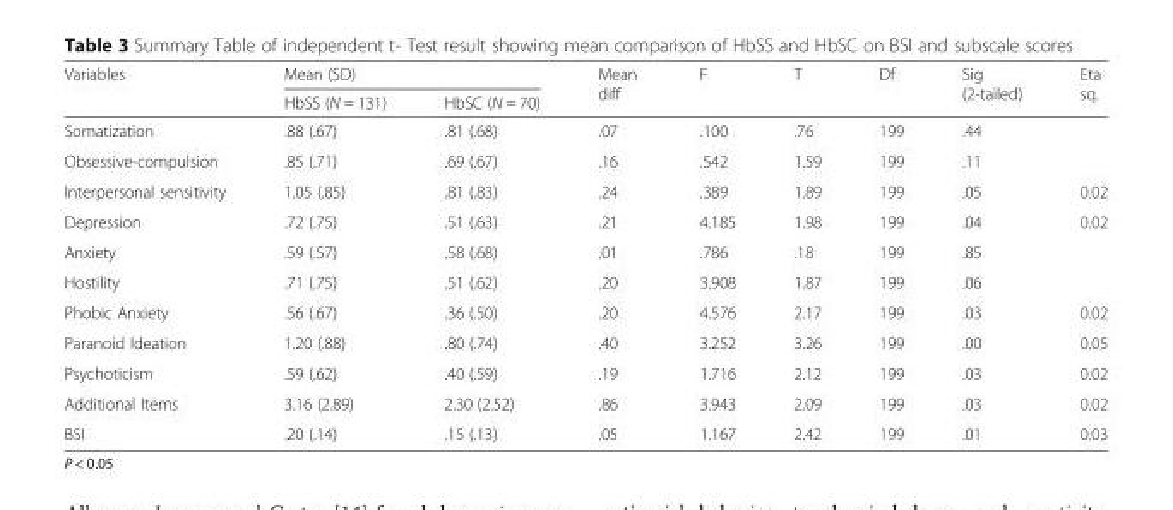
<table><thead><tr><td rowspan="2">Variables</td><td colspan="2">Mean (SD)</td><td rowspan="2">Mean diff</td><td rowspan="2">F</td><td rowspan="2">T</td><td rowspan="2">Df</td><td rowspan="2">Sig (2-tailed)</td><td rowspan="2">Eta sq.</td></tr><tr><td>HbSS (N = 131)</td><td>HbSC (N = 70)</td></tr></thead><tbody><tr><td>Somatization</td><td>.88 (.67)</td><td>.81 (.68)</td><td>.07</td><td>.100</td><td>.76</td><td>199</td><td>.44</td><td></td></tr><tr><td>Obsessive-compulsion</td><td>.85 (.71)</td><td>.69 (.67)</td><td>.16</td><td>.542</td><td>1.59</td><td>199</td><td>.11</td><td></td></tr><tr><td>Interpersonal sensitivity</td><td>1.05 (.85)</td><td>.81 (.83)</td><td>.24</td><td>.389</td><td>1.89</td><td>199</td><td>.05</td><td>0.02</td></tr><tr><td>Depression</td><td>.72 (.75)</td><td>.51 (.63)</td><td>.21</td><td>4.185</td><td>1.98</td><td>199</td><td>.04</td><td>0.02</td></tr><tr><td>Anxiety</td><td>.59 (.57)</td><td>.58 (.68)</td><td>.01</td><td>.786</td><td>.18</td><td>199</td><td>.85</td><td></td></tr><tr><td>Hostility</td><td>.71 (.75)</td><td>.51 (.62)</td><td>.20</td><td>3.908</td><td>1.87</td><td>199</td><td>.06</td><td></td></tr><tr><td>Phobic Anxiety</td><td>.56 (.67)</td><td>.36 (.50)</td><td>.20</td><td>4.576</td><td>2.17</td><td>199</td><td>.03</td><td>0.02</td></tr><tr><td>Paranoid Ideation</td><td>1.20 (.88)</td><td>.80 (.74)</td><td>.40</td><td>3.252</td><td>3.26</td><td>199</td><td>.00</td><td>0.05</td></tr><tr><td>Psychoticism</td><td>.59 (.62)</td><td>.40 (.59)</td><td>.19</td><td>1.716</td><td>2.12</td><td>199</td><td>.03</td><td>0.02</td></tr><tr><td>Additional Items</td><td>3.16 (2.89)</td><td>2.30 (2.52)</td><td>.86</td><td>3.943</td><td>2.09</td><td>199</td><td>.03</td><td>0.02</td></tr><tr><td>BSI</td><td>.20 (.14)</td><td>.15 (.13)</td><td>.05</td><td>1.167</td><td>2.42</td><td>199</td><td>.01</td><td>0.03</td></tr></tbody></table>